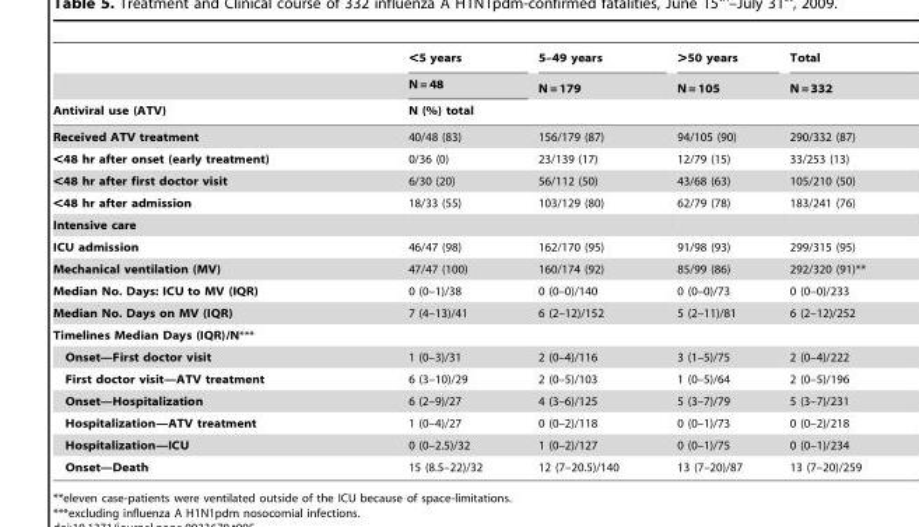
<table><thead><tr><td rowspan="3">Antiviral use (ATV)</td><td rowspan="3">&lt;5 years N = 48 N (%) total</td><td rowspan="3">5–49 years N = 179</td><td rowspan="3">&gt;50 years N = 105</td><td rowspan="3">Total N = 332</td></tr><tr></tr><tr></tr></thead><tbody><tr><td>Received ATV treatment</td><td>40/48 (83)</td><td>156/179 (87)</td><td>94/105 (90)</td><td>290/332 (87)</td></tr><tr><td>&lt;48 hr after onset (early treatment)</td><td>0/36 (0)</td><td>23/139 (17)</td><td>12/79 (15)</td><td>33/253 (13)</td></tr><tr><td>&lt;48 hr after first doctor visit</td><td>6/30 (20)</td><td>56/112 (50)</td><td>43/68 (63)</td><td>105/210 (50)</td></tr><tr><td>&lt;48 hr after admission</td><td>18/33 (55)</td><td>103/129 (80)</td><td>62/79 (78)</td><td>183/241 (76)</td></tr><tr><td colspan="5">Intensive care</td></tr><tr><td>ICU admission</td><td>46/47 (98)</td><td>162/170 (95)</td><td>91/98 (93)</td><td>299/315 (95)</td></tr><tr><td>Mechanical ventilation (MV)</td><td>47/47 (100)</td><td>160/174 (92)</td><td>85/99 (86)</td><td>292/320 (91)**</td></tr><tr><td>Median No. Days: ICU to MV (IQR)</td><td>0 (0–1)/38</td><td>0 (0–0)/140</td><td>0 (0–0)/73</td><td>0 (0–0)/233</td></tr><tr><td>Median No. Days on MV (IQR)</td><td>7 (4–13)/41</td><td>6 (2–12)/152</td><td>5 (2–11)/81</td><td>6 (2–12)/252</td></tr><tr><td colspan="5">Timelines Median Days (IQR)/N***</td></tr><tr><td>Onset—First doctor visit</td><td>1 (0–3)/31</td><td>2 (0–4)/116</td><td>3 (1–5)/75</td><td>2 (0–4)/222</td></tr><tr><td>First doctor visit—ATV treatment</td><td>6 (3–10)/29</td><td>2 (0–5)/103</td><td>1 (0–5)/64</td><td>2 (0–5)/196</td></tr><tr><td>Onset—Hospitalization</td><td>6 (2–9)/27</td><td>4 (3–6)/125</td><td>5 (3–7)/79</td><td>5 (3–7)/231</td></tr><tr><td>Hospitalization—ATV treatment</td><td>1 (0–4)/27</td><td>0 (0–2)/118</td><td>0 (0–1)/73</td><td>0 (0–2)/218</td></tr><tr><td>Hospitalization—ICU</td><td>0 (0–2.5)/32</td><td>1 (0–2)/127</td><td>0 (0–1)/75</td><td>0 (0–1)/234</td></tr><tr><td>Onset—Death</td><td>15 (8.5–22)/32</td><td>12 (7–20.5)/140</td><td>13 (7–20)/87</td><td>13 (7–20)/259</td></tr></tbody></table>